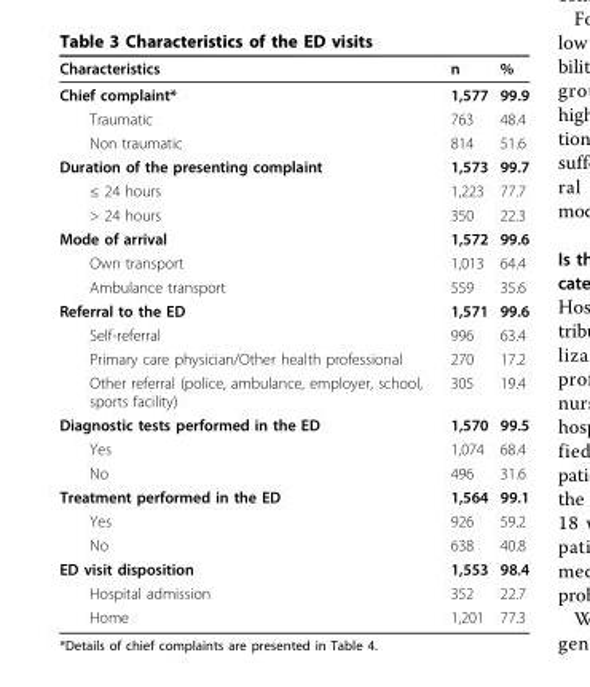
<table><thead><tr><td>Characteristics</td><td>n</td><td>%</td></tr></thead><tbody><tr><td>Chief complaint*</td><td>1,577</td><td>99.9</td></tr><tr><td>Traumatic</td><td>763</td><td>48.4</td></tr><tr><td>Non traumatic</td><td>814</td><td>51.6</td></tr><tr><td>Duration of the presenting complaint</td><td>1,573</td><td>99.7</td></tr><tr><td>≤ 24 hours</td><td>1,223</td><td>77.7</td></tr><tr><td>&gt; 24 hours</td><td>350</td><td>22.3</td></tr><tr><td>Mode of arrival</td><td>1,572</td><td>99.6</td></tr><tr><td>Own transport</td><td>1,013</td><td>64.4</td></tr><tr><td>Ambulance transport</td><td>559</td><td>35.6</td></tr><tr><td>Referral to the ED</td><td>1,571</td><td>99.6</td></tr><tr><td>Self-referral</td><td>996</td><td>63.4</td></tr><tr><td>Primary care physician/Other health professional</td><td>270</td><td>17.2</td></tr><tr><td>Other referral (police, ambulance, employer, school, sports facility)</td><td>305</td><td>19.4</td></tr><tr><td>Diagnostic tests performed in the ED</td><td>1,570</td><td>99.5</td></tr><tr><td>Yes</td><td>1,074</td><td>68.4</td></tr><tr><td>No</td><td>496</td><td>31.6</td></tr><tr><td>Treatment performed in the ED</td><td>1,564</td><td>99.1</td></tr><tr><td>Yes</td><td>926</td><td>59.2</td></tr><tr><td>No</td><td>638</td><td>40.8</td></tr><tr><td>ED visit disposition</td><td>1,553</td><td>98.4</td></tr><tr><td>Hospital admission</td><td>352</td><td>22.7</td></tr><tr><td>Home</td><td>1,201</td><td>77.3</td></tr></tbody></table>